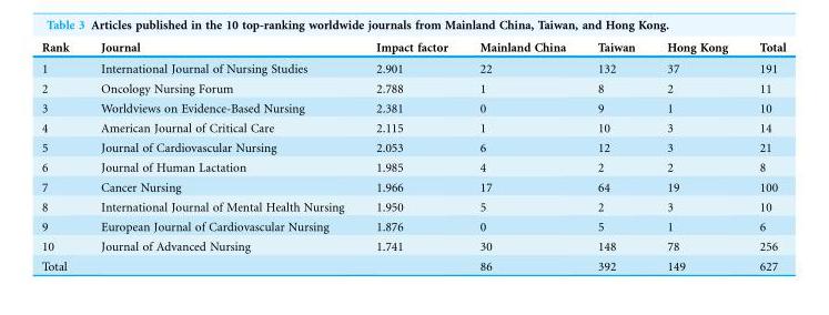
<table><thead><tr><td>Rank</td><td>Journal</td><td>Impact factor</td><td>Mainland China</td><td>Taiwan</td><td>Hong Kong</td><td>Total</td></tr></thead><tbody><tr><td>1</td><td>International Journal of Nursing Studies</td><td>2.901</td><td>22</td><td>132</td><td>37</td><td>191</td></tr><tr><td>2</td><td>Oncology Nursing Forum</td><td>2.788</td><td>1</td><td>8</td><td>2</td><td>11</td></tr><tr><td>3</td><td>Worldviews on Evidence-Based Nursing</td><td>2.381</td><td>0</td><td>9</td><td>1</td><td>10</td></tr><tr><td>4</td><td>American Journal of Critical Care</td><td>2.115</td><td>1</td><td>10</td><td>3</td><td>14</td></tr><tr><td>5</td><td>Journal of Cardiovascular Nursing</td><td>2.053</td><td>6</td><td>12</td><td>3</td><td>21</td></tr><tr><td>6</td><td>Journal of Human Lactation</td><td>1.985</td><td>4</td><td>2</td><td>2</td><td>8</td></tr><tr><td>7</td><td>Cancer Nursing</td><td>1.966</td><td>17</td><td>64</td><td>19</td><td>100</td></tr><tr><td>8</td><td>International Journal of Mental Health Nursing</td><td>1.950</td><td>5</td><td>2</td><td>3</td><td>10</td></tr><tr><td>9</td><td>European Journal of Cardiovascular Nursing</td><td>1.876</td><td>0</td><td>5</td><td>1</td><td>6</td></tr><tr><td>10</td><td>Journal of Advanced Nursing</td><td>1.741</td><td>30</td><td>148</td><td>78</td><td>256</td></tr><tr><td>Total</td><td></td><td></td><td>86</td><td>392</td><td>149</td><td>627</td></tr></tbody></table>